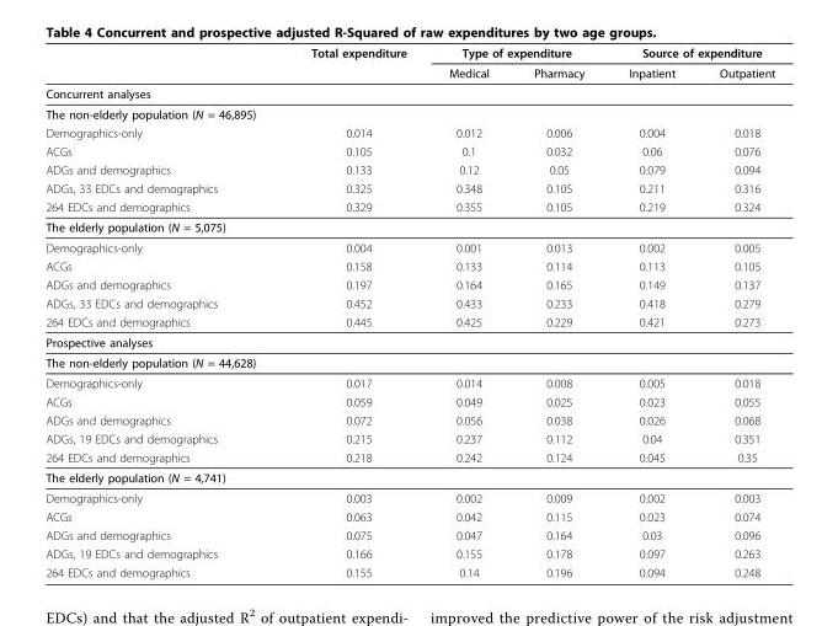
<table><thead><tr><td rowspan="2"></td><td rowspan="2">Total expenditure</td><td colspan="2">Type of expenditure</td><td colspan="2">Source of expenditure</td></tr><tr><td>Medical</td><td>Pharmacy</td><td>Inpatient</td><td>Outpatient</td></tr></thead><tbody><tr><td colspan="6">Concurrent analyses</td></tr><tr><td colspan="6">The non-elderly population (N = 46,895)</td></tr><tr><td>Demographics-only</td><td>0.014</td><td>0.012</td><td>0.006</td><td>0.004</td><td>0.018</td></tr><tr><td>ACGs</td><td>0.105</td><td>0.1</td><td>0.032</td><td>0.06</td><td>0.076</td></tr><tr><td>ADGs and demographics</td><td>0.133</td><td>0.12</td><td>0.05</td><td>0.079</td><td>0.094</td></tr><tr><td>ADGs, 33 EDCs and demographics</td><td>0.325</td><td>0.348</td><td>0.105</td><td>0.211</td><td>0.316</td></tr><tr><td>264 EDCs and demographics</td><td>0.329</td><td>0.355</td><td>0.105</td><td>0.219</td><td>0.324</td></tr><tr><td colspan="6">The elderly population (N = 5,075)</td></tr><tr><td>Demographics-only</td><td>0.004</td><td>0.001</td><td>0.013</td><td>0.002</td><td>0.005</td></tr><tr><td>ACGs</td><td>0.158</td><td>0.133</td><td>0.114</td><td>0.113</td><td>0.105</td></tr><tr><td>ADGs and demographics</td><td>0.197</td><td>0.164</td><td>0.165</td><td>0.149</td><td>0.137</td></tr><tr><td>ADGs, 33 EDCs and demographics</td><td>0.452</td><td>0.433</td><td>0.233</td><td>0.418</td><td>0.279</td></tr><tr><td>264 EDCs and demographics</td><td>0.445</td><td>0.425</td><td>0.229</td><td>0.421</td><td>0.273</td></tr><tr><td colspan="6">Prospective analyses</td></tr><tr><td colspan="6">The non-elderly population (N = 44,628)</td></tr><tr><td>Demographics-only</td><td>0.017</td><td>0.014</td><td>0.008</td><td>0.005</td><td>0.018</td></tr><tr><td>ACGs</td><td>0.059</td><td>0.049</td><td>0.025</td><td>0.023</td><td>0.055</td></tr><tr><td>ADGs and demographics</td><td>0.072</td><td>0.056</td><td>0.038</td><td>0.026</td><td>0.068</td></tr><tr><td>ADGs, 19 EDCs and demographics</td><td>0.215</td><td>0.237</td><td>0.112</td><td>0.04</td><td>0.351</td></tr><tr><td>264 EDCs and demographics</td><td>0.218</td><td>0.242</td><td>0.124</td><td>0.045</td><td>0.35</td></tr><tr><td colspan="6">The elderly population (N = 4,741)</td></tr><tr><td>Demographics-only</td><td>0.003</td><td>0.002</td><td>0.009</td><td>0.002</td><td>0.003</td></tr><tr><td>ACGs</td><td>0.063</td><td>0.042</td><td>0.115</td><td>0.023</td><td>0.074</td></tr><tr><td>ADGs and demographics</td><td>0.075</td><td>0.047</td><td>0.164</td><td>0.03</td><td>0.096</td></tr><tr><td>ADGs, 19 EDCs and demographics</td><td>0.166</td><td>0.155</td><td>0.178</td><td>0.097</td><td>0.263</td></tr><tr><td>264 EDCs and demographics</td><td>0.155</td><td>0.14</td><td>0.196</td><td>0.094</td><td>0.248</td></tr></tbody></table>